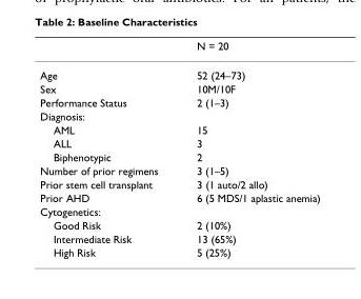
<table><thead><tr><td></td><td>N = 20</td></tr></thead><tbody><tr><td>Age</td><td>52 (24–73)</td></tr><tr><td>Sex</td><td>10M/10F</td></tr><tr><td>Performance Status</td><td>2 (1–3)</td></tr><tr><td colspan="2">Diagnosis:</td></tr><tr><td>AML</td><td>15</td></tr><tr><td>ALL</td><td>3</td></tr><tr><td>Biphenotypic</td><td>2</td></tr><tr><td>Number of prior regimens</td><td>3 (1–5)</td></tr><tr><td>Prior stem cell transplant</td><td>3 (1 auto/2 allo)</td></tr><tr><td>Prior AHD</td><td>6 (5 MDS/1 aplastic anemia)</td></tr><tr><td colspan="2">Cytogenetics:</td></tr><tr><td>Good Risk</td><td>2 (10%)</td></tr><tr><td>Intermediate Risk</td><td>13 (65%)</td></tr><tr><td>High Risk</td><td>5 (25%)</td></tr></tbody></table>